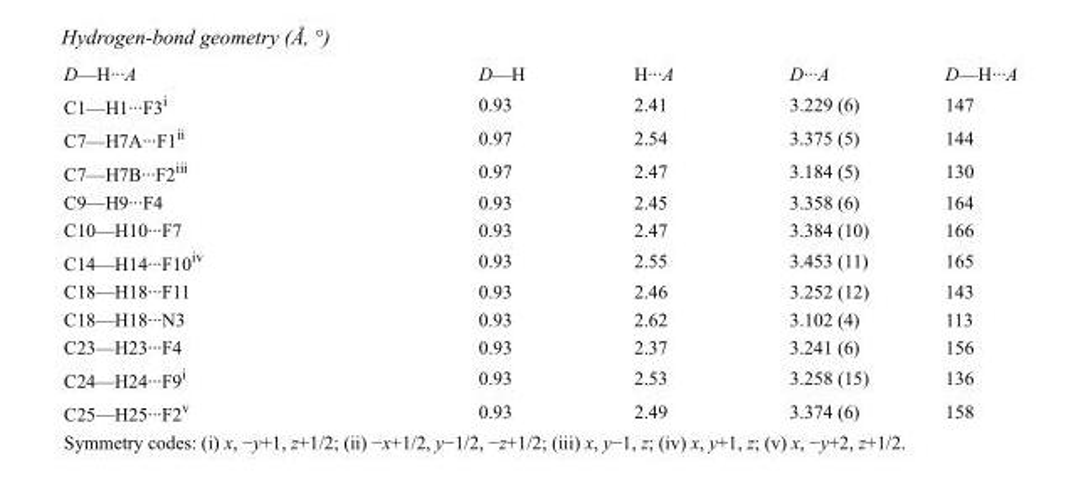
<table><tbody><tr><td>D—H···A</td><td>D—H</td><td>H···A</td><td>D···A</td><td>D—H···A</td></tr><tr><td>C1—H1···F3<sup>i</sup></td><td>0.93</td><td>2.41</td><td>3.229 (6)</td><td>147</td></tr><tr><td>C7—H7A···F1<sup>ii</sup></td><td>0.97</td><td>2.54</td><td>3.375 (5)</td><td>144</td></tr><tr><td>C7—H7B···F2<sup>iii</sup></td><td>0.97</td><td>2.47</td><td>3.184 (5)</td><td>130</td></tr><tr><td>C9—H9···F4</td><td>0.93</td><td>2.45</td><td>3.358 (6)</td><td>164</td></tr><tr><td>C10—H10···F7</td><td>0.93</td><td>2.47</td><td>3.384 (10)</td><td>166</td></tr><tr><td>C14—H14···F10<sup>iv</sup></td><td>0.93</td><td>2.55</td><td>3.453 (11)</td><td>165</td></tr><tr><td>C18—H18···F11</td><td>0.93</td><td>2.46</td><td>3.252 (12)</td><td>143</td></tr><tr><td>C18—H18···N3</td><td>0.93</td><td>2.62</td><td>3.102 (4)</td><td>113</td></tr><tr><td>C23—H23···F4</td><td>0.93</td><td>2.37</td><td>3.241 (6)</td><td>156</td></tr><tr><td>C24—H24···F9<sup>i</sup></td><td>0.93</td><td>2.53</td><td>3.258 (15)</td><td>136</td></tr><tr><td>C25—H25···F2<sup>v</sup></td><td>0.93</td><td>2.49</td><td>3.374 (6)</td><td>158</td></tr></tbody></table>